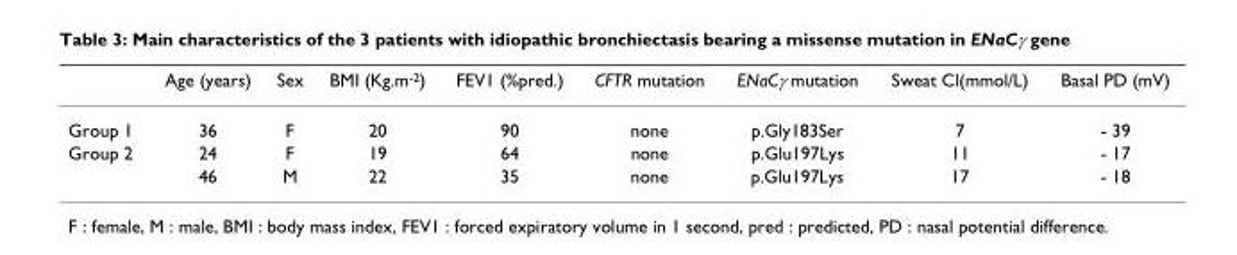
<table><thead><tr><td></td><td>Age (years)</td><td>Sex</td><td>BMI (Kg.m<sup>-2</sup>)</td><td>FEV1 (%pred.)</td><td>CFTR mutation</td><td>ENaCγ mutation</td><td>Sweat Cl(mmol/L)</td><td>Basal PD (mV)</td></tr></thead><tbody><tr><td>Group 1</td><td>36</td><td>F</td><td>20</td><td>90</td><td>none</td><td>p.Gly183Ser</td><td>7</td><td>- 39</td></tr><tr><td rowspan="2">Group 2</td><td>24</td><td>F</td><td>19</td><td>64</td><td>none</td><td>p.Glu197Lys</td><td>11</td><td>- 17</td></tr><tr><td>46</td><td>M</td><td>22</td><td>35</td><td>none</td><td>p.Glu197Lys</td><td>17</td><td>- 18</td></tr></tbody></table>